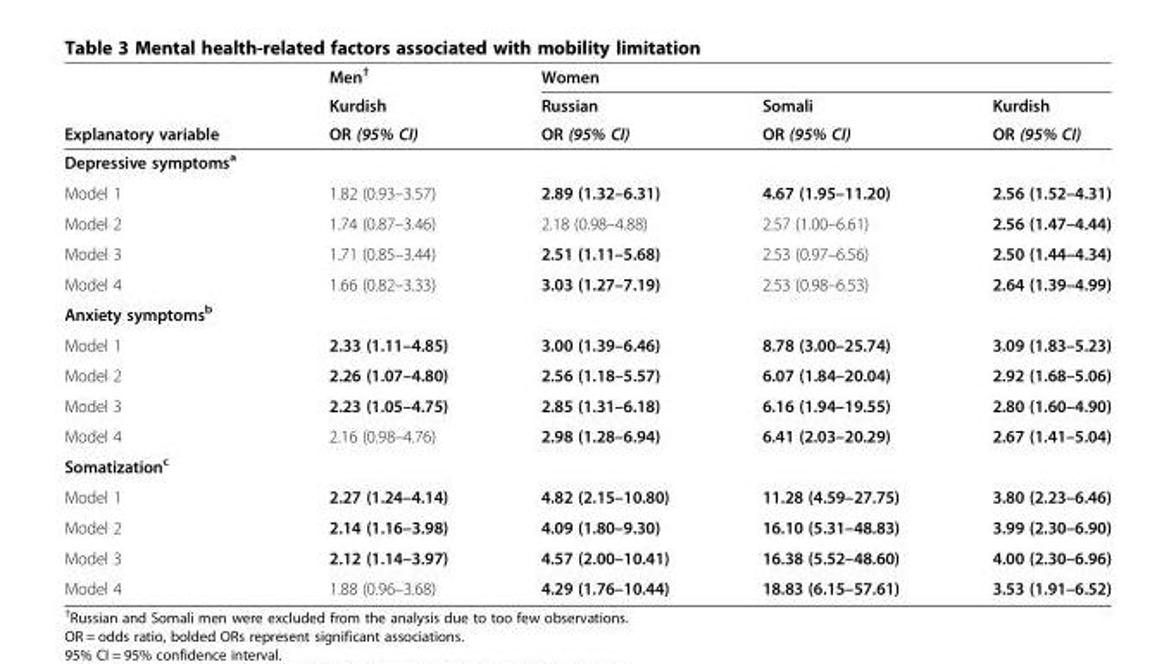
<table><thead><tr><td rowspan="3">Explanatory variable</td><td rowspan="3">Men<sup>†</sup> Kurdish OR (95% CI)</td><td colspan="3">Women</td></tr><tr><td rowspan="2">Russian OR (95% CI)</td><td rowspan="2">Somali OR (95% CI)</td><td rowspan="2">Kurdish OR (95% CI)</td></tr><tr></tr></thead><tbody><tr><td colspan="5">Depressive symptoms<sup>a</sup></td></tr><tr><td>Model 1</td><td>1.82 (0.93–3.57)</td><td>2.89 (1.32–6.31)</td><td>4.67 (1.95–11.20)</td><td>2.56 (1.52–4.31)</td></tr><tr><td>Model 2</td><td>1.74 (0.87–3.46)</td><td>2.18 (0.98–4.88)</td><td>2.57 (1.00–6.61)</td><td>2.56 (1.47–4.44)</td></tr><tr><td>Model 3</td><td>1.71 (0.85–3.44)</td><td>2.51 (1.11–5.68)</td><td>2.53 (0.97–6.56)</td><td>2.50 (1.44–4.34)</td></tr><tr><td>Model 4</td><td>1.66 (0.82–3.33)</td><td>3.03 (1.27–7.19)</td><td>2.53 (0.98–6.53)</td><td>2.64 (1.39–4.99)</td></tr><tr><td colspan="5">Anxiety symptoms<sup>b</sup></td></tr><tr><td>Model 1</td><td>2.33 (1.11–4.85)</td><td>3.00 (1.39–6.46)</td><td>8.78 (3.00–25.74)</td><td>3.09 (1.83–5.23)</td></tr><tr><td>Model 2</td><td>2.26 (1.07–4.80)</td><td>2.56 (1.18–5.57)</td><td>6.07 (1.84–20.04)</td><td>2.92 (1.68–5.06)</td></tr><tr><td>Model 3</td><td>2.23 (1.05–4.75)</td><td>2.85 (1.31–6.18)</td><td>6.16 (1.94–19.55)</td><td>2.80 (1.60–4.90)</td></tr><tr><td>Model 4</td><td>2.16 (0.98–4.76)</td><td>2.98 (1.28–6.94)</td><td>6.41 (2.03–20.29)</td><td>2.67 (1.41–5.04)</td></tr><tr><td colspan="5">Somatization<sup>c</sup></td></tr><tr><td>Model 1</td><td>2.27 (1.24–4.14)</td><td>4.82 (2.15–10.80)</td><td>11.28 (4.59–27.75)</td><td>3.80 (2.23–6.46)</td></tr><tr><td>Model 2</td><td>2.14 (1.16–3.98)</td><td>4.09 (1.80–9.30)</td><td>16.10 (5.31–48.83)</td><td>3.99 (2.30–6.90)</td></tr><tr><td>Model 3</td><td>2.12 (1.14–3.97)</td><td>4.57 (2.00–10.41)</td><td>16.38 (5.52–48.60)</td><td>4.00 (2.30–6.96)</td></tr><tr><td>Model 4</td><td>1.88 (0.96–3.68)</td><td>4.29 (1.76–10.44)</td><td>18.83 (6.15–57.61)</td><td>3.53 (1.91–6.52)</td></tr></tbody></table>